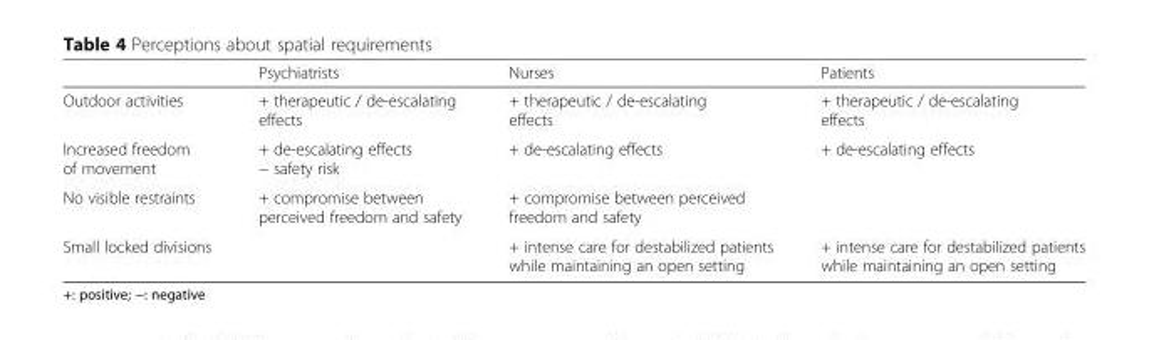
<table><thead><tr><td></td><td>Psychiatrists</td><td>Nurses</td><td>Patients</td></tr></thead><tbody><tr><td>Outdoor activities</td><td>+ therapeutic / de-escalating effects</td><td>+ therapeutic / de-escalating effects</td><td>+ therapeutic / de-escalating effects</td></tr><tr><td>Increased freedom of movement</td><td>+ de-escalating effects − safety risk</td><td>+ de-escalating effects</td><td>+ de-escalating effects</td></tr><tr><td>No visible restraints</td><td>+ compromise between perceived freedom and safety</td><td>+ compromise between perceived freedom and safety</td><td></td></tr><tr><td>Small locked divisions</td><td></td><td>+ intense care for destabilized patients while maintaining an open setting</td><td>+ intense care for destabilized patients while maintaining an open setting</td></tr></tbody></table>